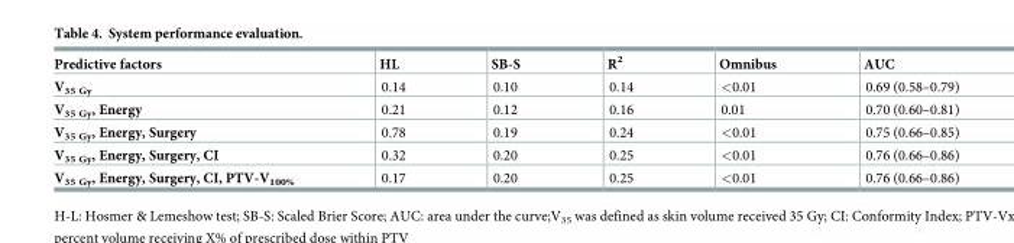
<table><thead><tr><td>Predictive factors</td><td>HL</td><td>SB-S</td><td>R<sup>2</sup></td><td>Omnibus</td><td>AUC</td></tr></thead><tbody><tr><td>V<sub>35 Gy</sub></td><td>0.14</td><td>0.10</td><td>0.14</td><td>&lt;0.01</td><td>0.69 (0.58–0.79)</td></tr><tr><td>V<sub>35 Gy</sub>, Energy</td><td>0.21</td><td>0.12</td><td>0.16</td><td>0.01</td><td>0.70 (0.60–0.81)</td></tr><tr><td>V<sub>35 Gy</sub>, Energy, Surgery</td><td>0.78</td><td>0.19</td><td>0.24</td><td>&lt;0.01</td><td>0.75 (0.66–0.85)</td></tr><tr><td>V<sub>35 Gy</sub>, Energy, Surgery, CI</td><td>0.32</td><td>0.20</td><td>0.25</td><td>&lt;0.01</td><td>0.76 (0.66–0.86)</td></tr><tr><td>V<sub>35 Gy</sub>, Energy, Surgery, CI, PTV-V<sub>100%</sub></td><td>0.17</td><td>0.20</td><td>0.25</td><td>&lt;0.01</td><td>0.76 (0.66–0.86)</td></tr></tbody></table>